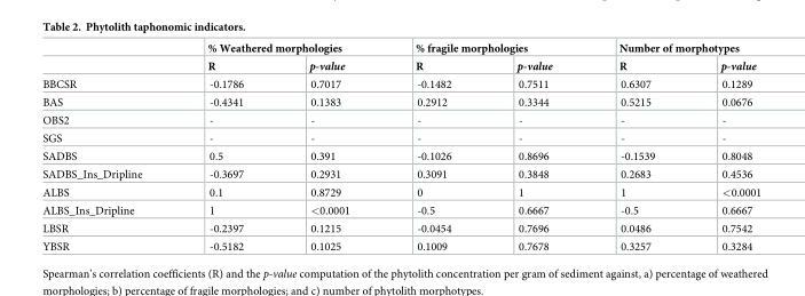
<table><thead><tr><td rowspan="2"></td><td colspan="2">% Weathered morphologies</td><td colspan="2">% fragile morphologies</td><td colspan="2">Number of morphotypes</td></tr><tr><td>R</td><td>p-value</td><td>R</td><td>p-value</td><td>R</td><td>p-value</td></tr></thead><tbody><tr><td>BBCSR</td><td>-0.1786</td><td>0.7017</td><td>-0.1482</td><td>0.7511</td><td>0.6307</td><td>0.1289</td></tr><tr><td>BAS</td><td>-0.4341</td><td>0.1383</td><td>0.2912</td><td>0.3344</td><td>0.5215</td><td>0.0676</td></tr><tr><td>OBS2</td><td>-</td><td>-</td><td>-</td><td>-</td><td>-</td><td>-</td></tr><tr><td>SGS</td><td>-</td><td>-</td><td>-</td><td>-</td><td>-</td><td>-</td></tr><tr><td>SADBS</td><td>0.5</td><td>0.391</td><td>-0.1026</td><td>0.8696</td><td>-0.1539</td><td>0.8048</td></tr><tr><td>SADBS_Ins_Dripline</td><td>-0.3697</td><td>0.2931</td><td>0.3091</td><td>0.3848</td><td>0.2683</td><td>0.4536</td></tr><tr><td>ALBS</td><td>0.1</td><td>0.8729</td><td>0</td><td>1</td><td>1</td><td>&lt;0.0001</td></tr><tr><td>ALBS_Ins_Dripline</td><td>1</td><td>&lt;0.0001</td><td>-0.5</td><td>0.6667</td><td>-0.5</td><td>0.6667</td></tr><tr><td>LBSR</td><td>-0.2397</td><td>0.1215</td><td>-0.0454</td><td>0.7696</td><td>0.0486</td><td>0.7542</td></tr><tr><td>YBSR</td><td>-0.5182</td><td>0.1025</td><td>0.1009</td><td>0.7678</td><td>0.3257</td><td>0.3284</td></tr></tbody></table>